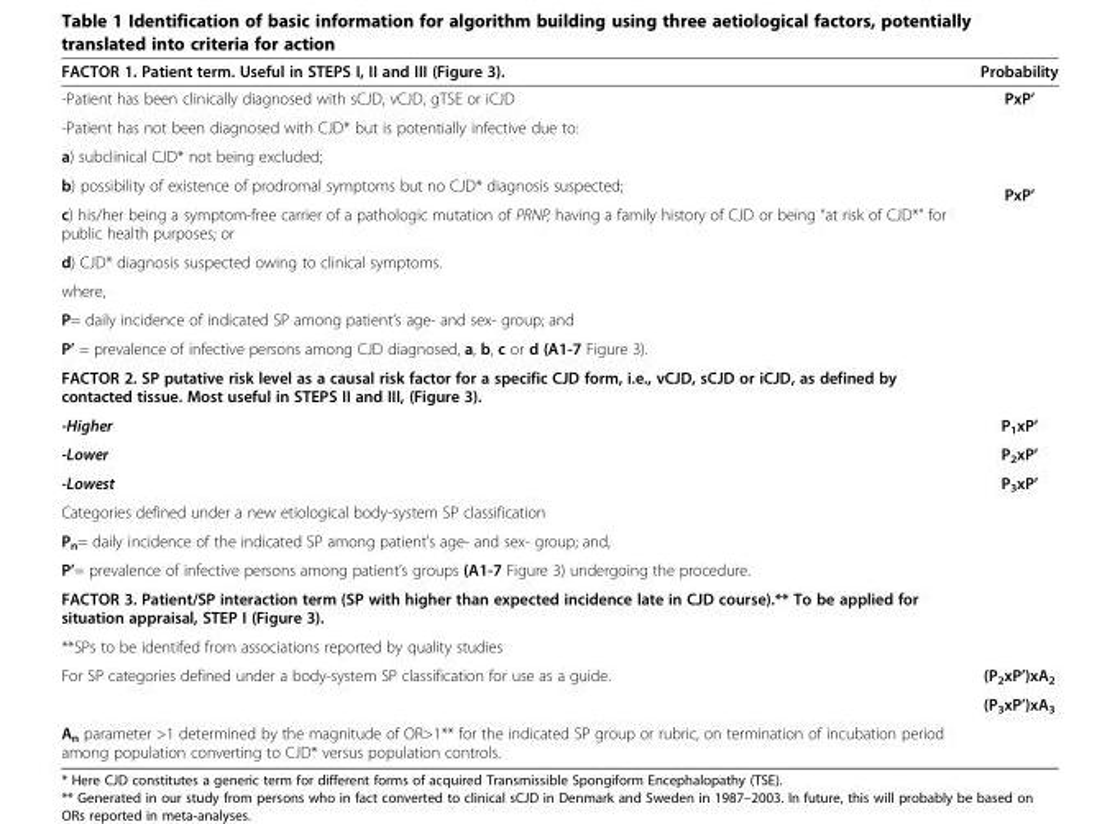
<table><thead><tr><td>FACTOR 1. Patient term. Useful in STEPS I, II and III (Figure 3).</td><td>Probability</td></tr></thead><tbody><tr><td>-Patient has been clinically diagnosed with sCJD, vCJD, gTSE or iCJD</td><td>PxP’</td></tr><tr><td>-Patient has not been diagnosed with CJD* but is potentially infective due to:</td><td rowspan="5">PxP’</td></tr><tr><td>a) subclinical CJD* not being excluded;</td></tr><tr><td>b) possibility of existence of prodromal symptoms but no CJD* diagnosis suspected;</td></tr><tr><td>c) his/her being a symptom-free carrier of a pathologic mutation of PRNP, having a family history of CJD or being “at risk of CJD*” for public health purposes; or</td></tr><tr><td>d) CJD* diagnosis suspected owing to clinical symptoms.</td></tr><tr><td colspan="2">where,</td></tr><tr><td colspan="2">P= daily incidence of indicated SP among patient’s age- and sex- group; and</td></tr><tr><td colspan="2">P’ = prevalence of infective persons among CJD diagnosed, a, b, c or d (A1-7 Figure 3).</td></tr><tr><td colspan="2">FACTOR 2. SP putative risk level as a causal risk factor for a specific CJD form, i.e., vCJD, sCJD or iCJD, as defined by contacted tissue. Most useful in STEPS II and III, (Figure 3).</td></tr><tr><td>-Higher</td><td>P<sub>1</sub>xP’</td></tr><tr><td>-Lower</td><td>P<sub>2</sub>xP’</td></tr><tr><td>-Lowest</td><td>P<sub>3</sub>xP’</td></tr><tr><td colspan="2">Categories defined under a new etiological body-system SP classification</td></tr><tr><td colspan="2">P<sub>n</sub>= daily incidence of the indicated SP among patient’s age- and sex- group; and,</td></tr><tr><td colspan="2">P’= prevalence of infective persons among patient’s groups (A1-7 Figure 3) undergoing the procedure.</td></tr><tr><td colspan="2">FACTOR 3. Patient/SP interaction term (SP with higher than expected incidence late in CJD course).** To be applied for situation appraisal, STEP I (Figure 3).</td></tr><tr><td colspan="2">**SPs to be identifed from associations reported by quality studies</td></tr><tr><td rowspan="2">For SP categories defined under a body-system SP classification for use as a guide.</td><td>(P<sub>2</sub>xP’)xA<sub>2</sub></td></tr><tr><td>(P<sub>3</sub>xP’)xA<sub>3</sub></td></tr><tr><td>A<sub>n</sub> parameter &gt;1 determined by the magnitude of OR&gt;1** for the indicated SP group or rubric, on termination of incubation period among population converting to CJD* versus population controls.</td><td></td></tr></tbody></table>